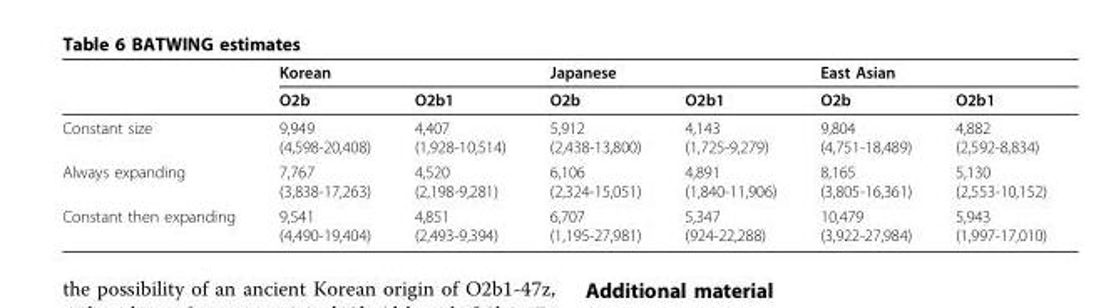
<table><thead><tr><td rowspan="2"></td><td colspan="2">Korean</td><td colspan="2">Japanese</td><td colspan="2">East Asian</td></tr><tr><td>O2b</td><td>O2b1</td><td>O2b</td><td>O2b1</td><td>O2b</td><td>O2b1</td></tr></thead><tbody><tr><td>Constant size</td><td>9,949 (4,598-20,408)</td><td>4,407 (1,928-10,514)</td><td>5,912 (2,438-13,800)</td><td>4,143 (1,725-9,279)</td><td>9,804 (4,751-18,489)</td><td>4,882 (2,592-8,834)</td></tr><tr><td>Always expanding</td><td>7,767 (3,838-17,263)</td><td>4,520 (2,198-9,281)</td><td>6,106 (2,324-15,051)</td><td>4,891 (1,840-11,906)</td><td>8,165 (3,805-16,361)</td><td>5,130 (2,553-10,152)</td></tr><tr><td>Constant then expanding</td><td>9,541 (4,490-19,404)</td><td>4,851 (2,493-9,394)</td><td>6,707 (1,195-27,981)</td><td>5,347 (924-22,288)</td><td>10,479 (3,922-27,984)</td><td>5,943 (1,997-17,010)</td></tr></tbody></table>